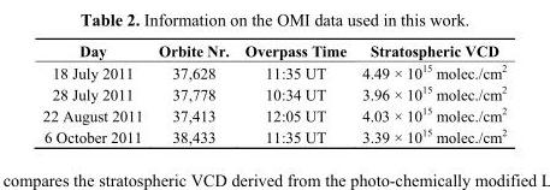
<table><thead><tr><td>Day</td><td>Orbite Nr.</td><td>Overpass Time</td><td>Stratospheric VCD</td></tr></thead><tbody><tr><td>18 July 2011</td><td>37,628</td><td>11:35 UT</td><td>4.49 × 10<sup>15</sup> molec./cm<sup>2</sup></td></tr><tr><td>28 July 2011</td><td>37,778</td><td>10:34 UT</td><td>3.96 × 10<sup>15</sup> molec./cm<sup>2</sup></td></tr><tr><td>22 August 2011</td><td>37,413</td><td>12:05 UT</td><td>4.03 × 10<sup>15</sup> molec./cm<sup>2</sup></td></tr><tr><td>6 October 2011</td><td>38,433</td><td>11:35 UT</td><td>3.39 × 10<sup>15</sup> molec./cm<sup>2</sup></td></tr></tbody></table>